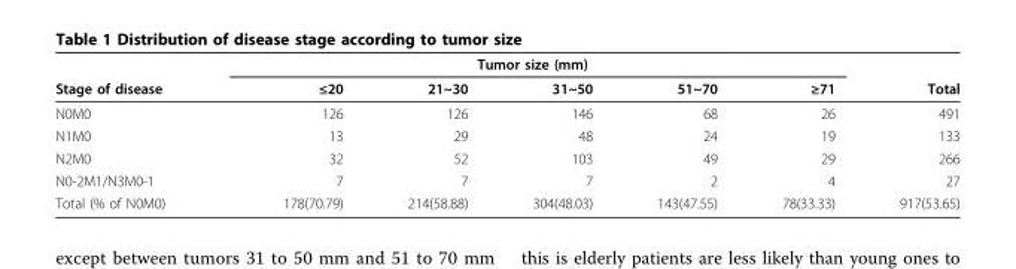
<table><thead><tr><td rowspan="2">Stage of disease</td><td colspan="5">Tumor size (mm)</td><td rowspan="2">Total</td></tr><tr><td>≤20</td><td>21~30</td><td>31~50</td><td>51~70</td><td>≥71</td></tr></thead><tbody><tr><td>N0M0</td><td>126</td><td>126</td><td>146</td><td>68</td><td>26</td><td>491</td></tr><tr><td>N1M0</td><td>13</td><td>29</td><td>48</td><td>24</td><td>19</td><td>133</td></tr><tr><td>N2M0</td><td>32</td><td>52</td><td>103</td><td>49</td><td>29</td><td>266</td></tr><tr><td>N0-2M1/N3M0-1</td><td>7</td><td>7</td><td>7</td><td>2</td><td>4</td><td>27</td></tr><tr><td>Total (% of N0M0)</td><td>178(70.79)</td><td>214(58.88)</td><td>304(48.03)</td><td>143(47.55)</td><td>78(33.33)</td><td>917(53.65)</td></tr></tbody></table>